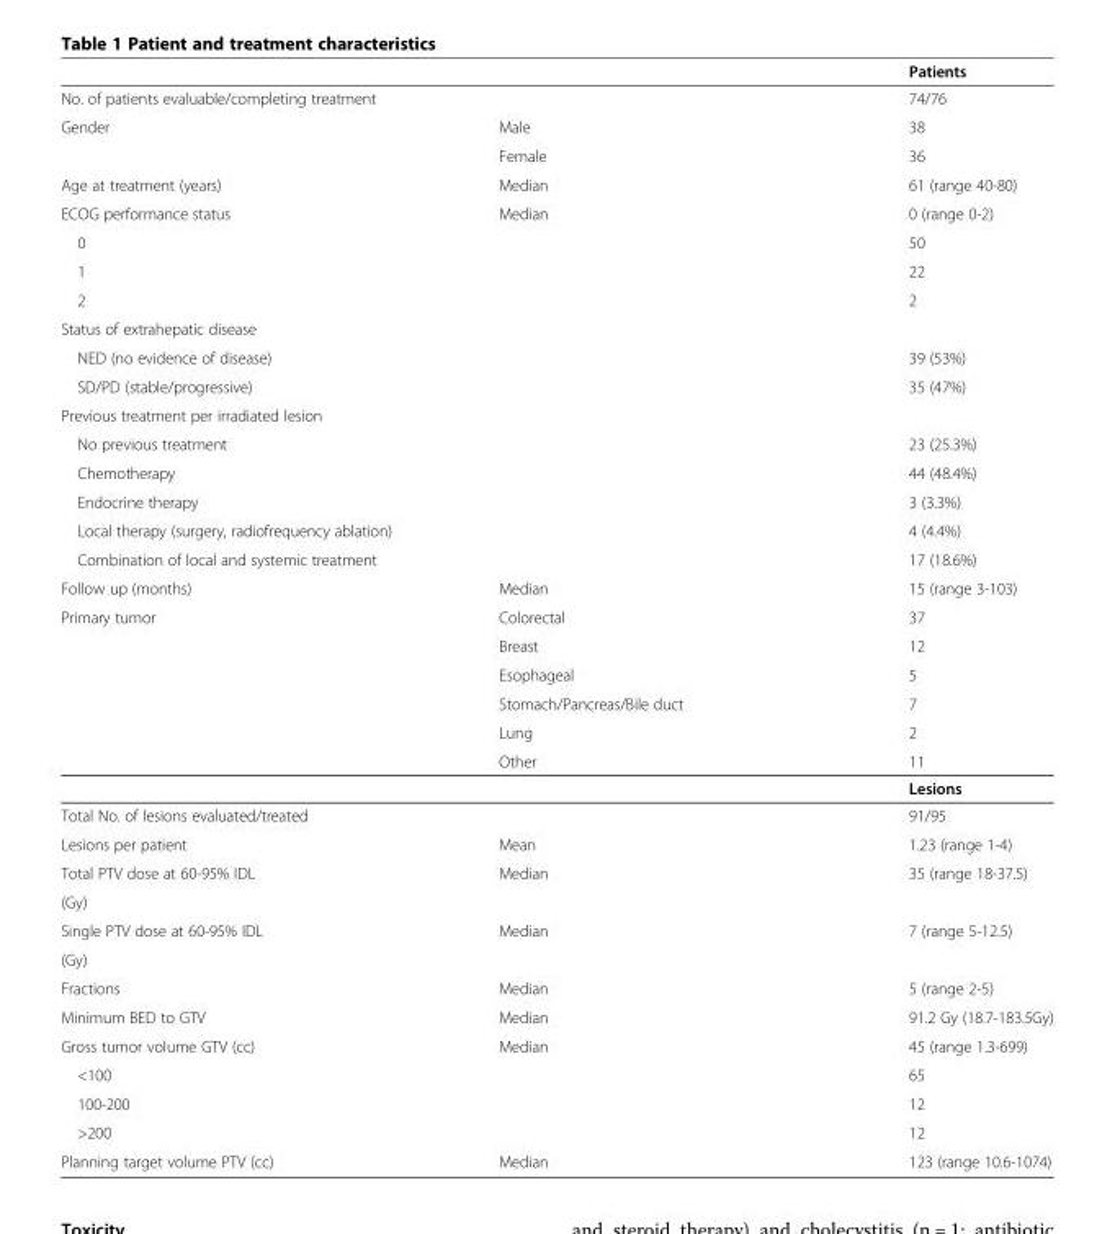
<table><thead><tr><td></td><td></td><td>Patients</td></tr></thead><tbody><tr><td colspan="2">No. of patients evaluable/completing treatment</td><td>74/76</td></tr><tr><td rowspan="2">Gender</td><td>Male</td><td>38</td></tr><tr><td>Female</td><td>36</td></tr><tr><td>Age at treatment (years)</td><td>Median</td><td>61 (range 40-80)</td></tr><tr><td>ECOG performance status</td><td>Median</td><td>0 (range 0-2)</td></tr><tr><td colspan="2">0</td><td>50</td></tr><tr><td colspan="2">1</td><td>22</td></tr><tr><td colspan="2">2</td><td>2</td></tr><tr><td colspan="3">Status of extrahepatic disease</td></tr><tr><td colspan="2">NED (no evidence of disease)</td><td>39 (53%)</td></tr><tr><td colspan="2">SD/PD (stable/progressive)</td><td>35 (47%)</td></tr><tr><td colspan="3">Previous treatment per irradiated lesion</td></tr><tr><td colspan="2">No previous treatment</td><td>23 (25.3%)</td></tr><tr><td colspan="2">Chemotherapy</td><td>44 (48.4%)</td></tr><tr><td colspan="2">Endocrine therapy</td><td>3 (3.3%)</td></tr><tr><td colspan="2">Local therapy (surgery, radiofrequency ablation)</td><td>4 (4.4%)</td></tr><tr><td colspan="2">Combination of local and systemic treatment</td><td>17 (18.6%)</td></tr><tr><td>Follow up (months)</td><td>Median</td><td>15 (range 3-103)</td></tr><tr><td rowspan="6">Primary tumor</td><td>Colorectal</td><td>37</td></tr><tr><td>Breast</td><td>12</td></tr><tr><td>Esophageal</td><td>5</td></tr><tr><td>Stomach/Pancreas/Bile duct</td><td>7</td></tr><tr><td>Lung</td><td>2</td></tr><tr><td>Other</td><td>11</td></tr><tr><td colspan="2"></td><td>Lesions</td></tr><tr><td colspan="2">Total No. of lesions evaluated/treated</td><td>91/95</td></tr><tr><td>Lesions per patient</td><td>Mean</td><td>1.23 (range 1-4)</td></tr><tr><td>Total PTV dose at 60-95% IDL</td><td>Median</td><td>35 (range 18-37.5)</td></tr><tr><td colspan="3">(Gy)</td></tr><tr><td>Single PTV dose at 60-95% IDL</td><td>Median</td><td>7 (range 5-12.5)</td></tr><tr><td colspan="3">(Gy)</td></tr><tr><td>Fractions</td><td>Median</td><td>5 (range 2-5)</td></tr><tr><td>Minimum BED to GTV</td><td>Median</td><td>91.2 Gy (18.7-183.5Gy)</td></tr><tr><td>Gross tumor volume GTV (cc)</td><td>Median</td><td>45 (range 1.3-699)</td></tr><tr><td colspan="2">&lt;100</td><td>65</td></tr><tr><td colspan="2">100-200</td><td>12</td></tr><tr><td colspan="2">&gt;200</td><td>12</td></tr><tr><td>Planning target volume PTV (cc)</td><td>Median</td><td>123 (range 10.6-1074)</td></tr></tbody></table>